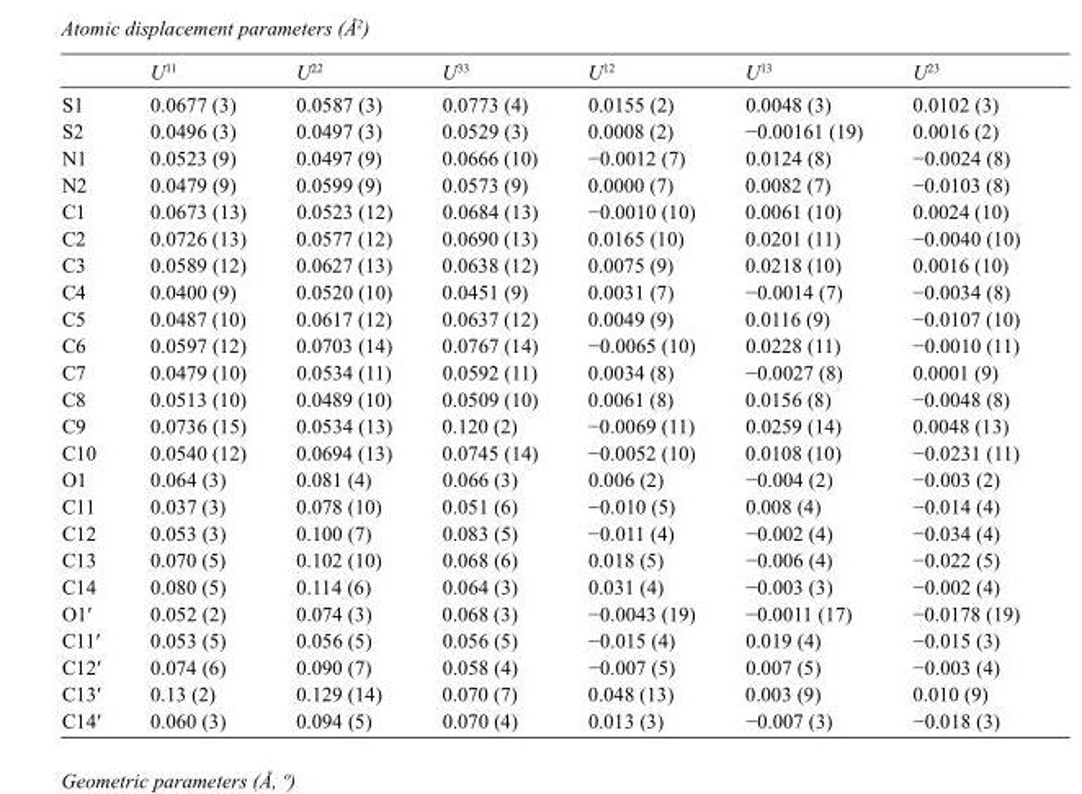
<table><thead><tr><td></td><td>U<sup>11</sup></td><td>U<sup>22</sup></td><td>U<sup>33</sup></td><td>U<sup>12</sup></td><td>U<sup>13</sup></td><td>U<sup>23</sup></td></tr></thead><tbody><tr><td>S1</td><td>0.0677 (3)</td><td>0.0587 (3)</td><td>0.0773 (4)</td><td>0.0155 (2)</td><td>0.0048 (3)</td><td>0.0102 (3)</td></tr><tr><td>S2</td><td>0.0496 (3)</td><td>0.0497 (3)</td><td>0.0529 (3)</td><td>0.0008 (2)</td><td>−0.00161 (19)</td><td>0.0016 (2)</td></tr><tr><td>N1</td><td>0.0523 (9)</td><td>0.0497 (9)</td><td>0.0666 (10)</td><td>−0.0012 (7)</td><td>0.0124 (8)</td><td>−0.0024 (8)</td></tr><tr><td>N2</td><td>0.0479 (9)</td><td>0.0599 (9)</td><td>0.0573 (9)</td><td>0.0000 (7)</td><td>0.0082 (7)</td><td>−0.0103 (8)</td></tr><tr><td>C1</td><td>0.0673 (13)</td><td>0.0523 (12)</td><td>0.0684 (13)</td><td>−0.0010 (10)</td><td>0.0061 (10)</td><td>0.0024 (10)</td></tr><tr><td>C2</td><td>0.0726 (13)</td><td>0.0577 (12)</td><td>0.0690 (13)</td><td>0.0165 (10)</td><td>0.0201 (11)</td><td>−0.0040 (10)</td></tr><tr><td>C3</td><td>0.0589 (12)</td><td>0.0627 (13)</td><td>0.0638 (12)</td><td>0.0075 (9)</td><td>0.0218 (10)</td><td>0.0016 (10)</td></tr><tr><td>C4</td><td>0.0400 (9)</td><td>0.0520 (10)</td><td>0.0451 (9)</td><td>0.0031 (7)</td><td>−0.0014 (7)</td><td>−0.0034 (8)</td></tr><tr><td>C5</td><td>0.0487 (10)</td><td>0.0617 (12)</td><td>0.0637 (12)</td><td>0.0049 (9)</td><td>0.0116 (9)</td><td>−0.0107 (10)</td></tr><tr><td>C6</td><td>0.0597 (12)</td><td>0.0703 (14)</td><td>0.0767 (14)</td><td>−0.0065 (10)</td><td>0.0228 (11)</td><td>−0.0010 (11)</td></tr><tr><td>C7</td><td>0.0479 (10)</td><td>0.0534 (11)</td><td>0.0592 (11)</td><td>0.0034 (8)</td><td>−0.0027 (8)</td><td>0.0001 (9)</td></tr><tr><td>C8</td><td>0.0513 (10)</td><td>0.0489 (10)</td><td>0.0509 (10)</td><td>0.0061 (8)</td><td>0.0156 (8)</td><td>−0.0048 (8)</td></tr><tr><td>C9</td><td>0.0736 (15)</td><td>0.0534 (13)</td><td>0.120 (2)</td><td>−0.0069 (11)</td><td>0.0259 (14)</td><td>0.0048 (13)</td></tr><tr><td>C10</td><td>0.0540 (12)</td><td>0.0694 (13)</td><td>0.0745 (14)</td><td>−0.0052 (10)</td><td>0.0108 (10)</td><td>−0.0231 (11)</td></tr><tr><td>O1</td><td>0.064 (3)</td><td>0.081 (4)</td><td>0.066 (3)</td><td>0.006 (2)</td><td>−0.004 (2)</td><td>−0.003 (2)</td></tr><tr><td>C11</td><td>0.037 (3)</td><td>0.078 (10)</td><td>0.051 (6)</td><td>−0.010 (5)</td><td>0.008 (4)</td><td>−0.014 (4)</td></tr><tr><td>C12</td><td>0.053 (3)</td><td>0.100 (7)</td><td>0.083 (5)</td><td>−0.011 (4)</td><td>−0.002 (4)</td><td>−0.034 (4)</td></tr><tr><td>C13</td><td>0.070 (5)</td><td>0.102 (10)</td><td>0.068 (6)</td><td>0.018 (5)</td><td>−0.006 (4)</td><td>−0.022 (5)</td></tr><tr><td>C14</td><td>0.080 (5)</td><td>0.114 (6)</td><td>0.064 (3)</td><td>0.031 (4)</td><td>−0.003 (3)</td><td>−0.002 (4)</td></tr><tr><td>O1′</td><td>0.052 (2)</td><td>0.074 (3)</td><td>0.068 (3)</td><td>−0.0043 (19)</td><td>−0.0011 (17)</td><td>−0.0178 (19)</td></tr><tr><td>C11′</td><td>0.053 (5)</td><td>0.056 (5)</td><td>0.056 (5)</td><td>−0.015 (4)</td><td>0.019 (4)</td><td>−0.015 (3)</td></tr><tr><td>C12′</td><td>0.074 (6)</td><td>0.090 (7)</td><td>0.058 (4)</td><td>−0.007 (5)</td><td>0.007 (5)</td><td>−0.003 (4)</td></tr><tr><td>C13′</td><td>0.13 (2)</td><td>0.129 (14)</td><td>0.070 (7)</td><td>0.048 (13)</td><td>0.003 (9)</td><td>0.010 (9)</td></tr><tr><td>C14′</td><td>0.060 (3)</td><td>0.094 (5)</td><td>0.070 (4)</td><td>0.013 (3)</td><td>−0.007 (3)</td><td>−0.018 (3)</td></tr></tbody></table>